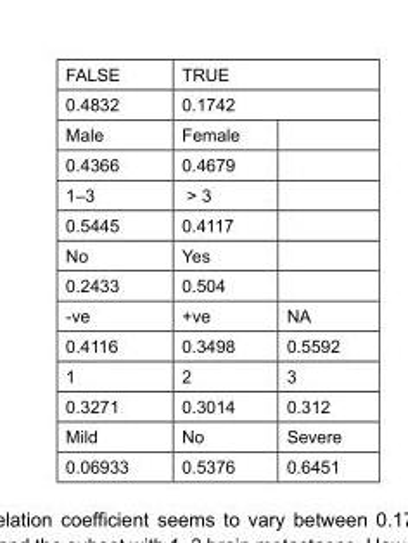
<table><tbody><tr><td>FALSE</td><td colspan="2">TRUE</td></tr><tr><td>0.4832</td><td colspan="2">0.1742</td></tr><tr><td>Male</td><td>Female</td><td></td></tr><tr><td>0.4366</td><td>0.4679</td><td></td></tr><tr><td>1–3</td><td>&gt; 3</td><td></td></tr><tr><td>0.5445</td><td>0.4117</td><td></td></tr><tr><td>No</td><td>Yes</td><td></td></tr><tr><td>0.2433</td><td>0.504</td><td></td></tr><tr><td>-ve</td><td>+ve</td><td>NA</td></tr><tr><td>0.4116</td><td>0.3498</td><td>0.5592</td></tr><tr><td>1</td><td>2</td><td>3</td></tr><tr><td>0.3271</td><td>0.3014</td><td>0.312</td></tr><tr><td>Mild</td><td>No</td><td>Severe</td></tr><tr><td>0.06933</td><td>0.5376</td><td>0.6451</td></tr></tbody></table>